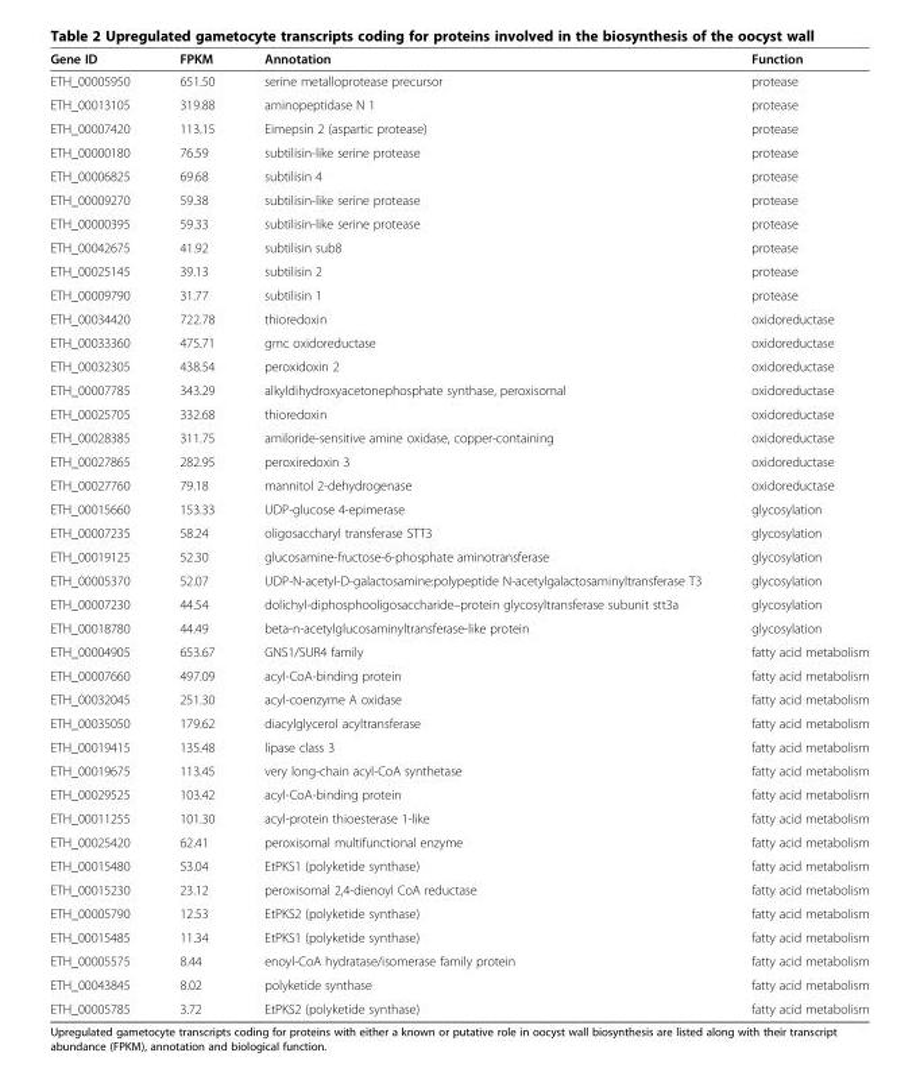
<table><thead><tr><td>Gene ID</td><td>FPKM</td><td>Annotation</td><td>Function</td></tr></thead><tbody><tr><td>ETH_00005950</td><td>651.50</td><td>serine metalloprotease precursor</td><td>protease</td></tr><tr><td>ETH_00013105</td><td>319.88</td><td>aminopeptidase N 1</td><td>protease</td></tr><tr><td>ETH_00007420</td><td>113.15</td><td>Eimepsin 2 (aspartic protease)</td><td>protease</td></tr><tr><td>ETH_00000180</td><td>76.59</td><td>subtilisin-like serine protease</td><td>protease</td></tr><tr><td>ETH_00006825</td><td>69.68</td><td>subtilisin 4</td><td>protease</td></tr><tr><td>ETH_00009270</td><td>59.38</td><td>subtilisin-like serine protease</td><td>protease</td></tr><tr><td>ETH_00000395</td><td>59.33</td><td>subtilisin-like serine protease</td><td>protease</td></tr><tr><td>ETH_00042675</td><td>41.92</td><td>subtilisin sub8</td><td>protease</td></tr><tr><td>ETH_00025145</td><td>39.13</td><td>subtilisin 2</td><td>protease</td></tr><tr><td>ETH_00009790</td><td>31.77</td><td>subtilisin 1</td><td>protease</td></tr><tr><td>ETH_00034420</td><td>722.78</td><td>thioredoxin</td><td>oxidoreductase</td></tr><tr><td>ETH_00033360</td><td>475.71</td><td>gmc oxidoreductase</td><td>oxidoreductase</td></tr><tr><td>ETH_00032305</td><td>438.54</td><td>peroxidoxin 2</td><td>oxidoreductase</td></tr><tr><td>ETH_00007785</td><td>343.29</td><td>alkyldihydroxyacetonephosphate synthase, peroxisomal</td><td>oxidoreductase</td></tr><tr><td>ETH_00025705</td><td>332.68</td><td>thioredoxin</td><td>oxidoreductase</td></tr><tr><td>ETH_00028385</td><td>311.75</td><td>amiloride-sensitive amine oxidase, copper-containing</td><td>oxidoreductase</td></tr><tr><td>ETH_00027865</td><td>282.95</td><td>peroxiredoxin 3</td><td>oxidoreductase</td></tr><tr><td>ETH_00027760</td><td>79.18</td><td>mannitol 2-dehydrogenase</td><td>oxidoreductase</td></tr><tr><td>ETH_00015660</td><td>153.33</td><td>UDP-glucose 4-epimerase</td><td>glycosylation</td></tr><tr><td>ETH_00007235</td><td>58.24</td><td>oligosaccharyl transferase STT3</td><td>glycosylation</td></tr><tr><td>ETH_00019125</td><td>52.30</td><td>glucosamine-fructose-6-phosphate aminotransferase</td><td>glycosylation</td></tr><tr><td>ETH_00005370</td><td>52.07</td><td>UDP-N-acetyl-D-galactosamine:polypeptide N-acetylgalactosaminyltransferase T3</td><td>glycosylation</td></tr><tr><td>ETH_00007230</td><td>44.54</td><td>dolichyl-diphosphooligosaccharide–protein glycosyltransferase subunit stt3a</td><td>glycosylation</td></tr><tr><td>ETH_00018780</td><td>44.49</td><td>beta-n-acetylglucosaminyltransferase-like protein</td><td>glycosylation</td></tr><tr><td>ETH_00004905</td><td>653.67</td><td>GNS1/SUR4 family</td><td>fatty acid metabolism</td></tr><tr><td>ETH_00007660</td><td>497.09</td><td>acyl-CoA-binding protein</td><td>fatty acid metabolism</td></tr><tr><td>ETH_00032045</td><td>251.30</td><td>acyl-coenzyme A oxidase</td><td>fatty acid metabolism</td></tr><tr><td>ETH_00035050</td><td>179.62</td><td>diacylglycerol acyltransferase</td><td>fatty acid metabolism</td></tr><tr><td>ETH_00019415</td><td>135.48</td><td>lipase class 3</td><td>fatty acid metabolism</td></tr><tr><td>ETH_00019675</td><td>113.45</td><td>very long-chain acyl-CoA synthetase</td><td>fatty acid metabolism</td></tr><tr><td>ETH_00029525</td><td>103.42</td><td>acyl-CoA-binding protein</td><td>fatty acid metabolism</td></tr><tr><td>ETH_00011255</td><td>101.30</td><td>acyl-protein thioesterase 1-like</td><td>fatty acid metabolism</td></tr><tr><td>ETH_00025420</td><td>62.41</td><td>peroxisomal multifunctional enzyme</td><td>fatty acid metabolism</td></tr><tr><td>ETH_00015480</td><td>53.04</td><td>EtPKS1 (polyketide synthase)</td><td>fatty acid metabolism</td></tr><tr><td>ETH_00015230</td><td>23.12</td><td>peroxisomal 2,4-dienoyl CoA reductase</td><td>fatty acid metabolism</td></tr><tr><td>ETH_00005790</td><td>12.53</td><td>EtPKS2 (polyketide synthase)</td><td>fatty acid metabolism</td></tr><tr><td>ETH_00015485</td><td>11.34</td><td>EtPKS1 (polyketide synthase)</td><td>fatty acid metabolism</td></tr><tr><td>ETH_00005575</td><td>8.44</td><td>enoyl-CoA hydratase/isomerase family protein</td><td>fatty acid metabolism</td></tr><tr><td>ETH_00043845</td><td>8.02</td><td>polyketide synthase</td><td>fatty acid metabolism</td></tr><tr><td>ETH_00005785</td><td>3.72</td><td>EtPKS2 (polyketide synthase)</td><td>fatty acid metabolism</td></tr></tbody></table>